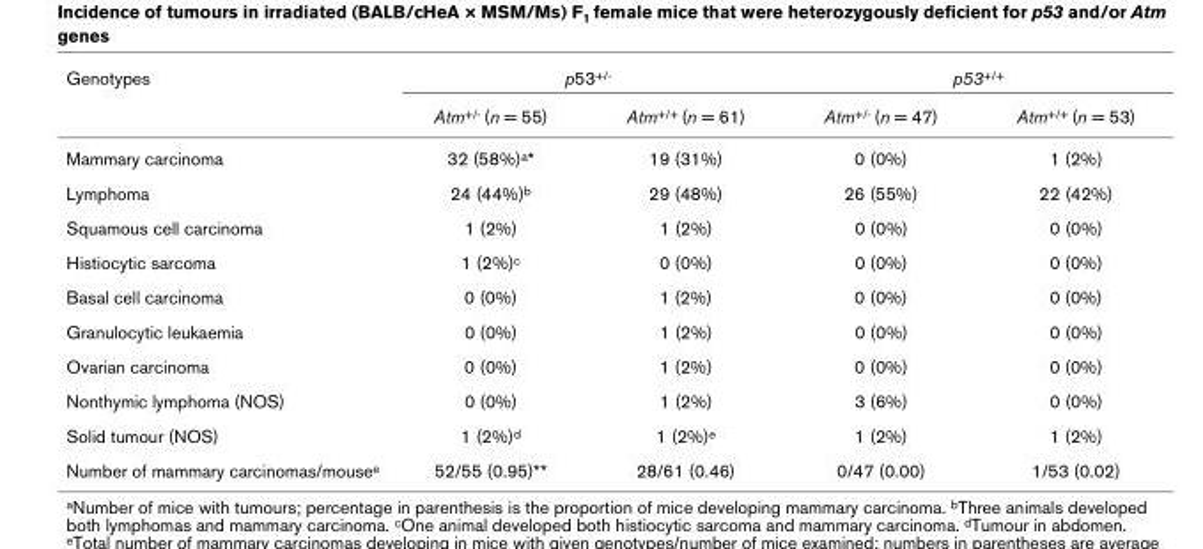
<table><thead><tr><td rowspan="2">Genotypes</td><td colspan="2">p53+/-</td><td colspan="2">p53+/+</td></tr><tr><td>Atm+/- (n = 55)</td><td>Atm+/+ (n = 61)</td><td>Atm+/- (n = 47)</td><td>Atm+/+ (n = 53)</td></tr></thead><tbody><tr><td>Mammary carcinoma</td><td>32 (58%)a*</td><td>19 (31%)</td><td>0 (0%)</td><td>1 (2%)</td></tr><tr><td>Lymphoma</td><td>24 (44%)b</td><td>29 (48%)</td><td>26 (55%)</td><td>22 (42%)</td></tr><tr><td>Squamous cell carcinoma</td><td>1 (2%)</td><td>1 (2%)</td><td>0 (0%)</td><td>0 (0%)</td></tr><tr><td>Histiocytic sarcoma</td><td>1 (2%)c</td><td>0 (0%)</td><td>0 (0%)</td><td>0 (0%)</td></tr><tr><td>Basal cell carcinoma</td><td>0 (0%)</td><td>1 (2%)</td><td>0 (0%)</td><td>0 (0%)</td></tr><tr><td>Granulocytic leukaemia</td><td>0 (0%)</td><td>1 (2%)</td><td>0 (0%)</td><td>0 (0%)</td></tr><tr><td>Ovarian carcinoma</td><td>0 (0%)</td><td>1 (2%)</td><td>0 (0%)</td><td>0 (0%)</td></tr><tr><td>Nonthymic lymphoma (NOS)</td><td>0 (0%)</td><td>1 (2%)</td><td>3 (6%)</td><td>0 (0%)</td></tr><tr><td>Solid tumour (NOS)</td><td>1 (2%)d</td><td>1 (2%)e</td><td>1 (2%)</td><td>1 (2%)</td></tr><tr><td>Number of mammary carcinomas/mousee</td><td>52/55 (0.95)**</td><td>28/61 (0.46)</td><td>0/47 (0.00)</td><td>1/53 (0.02)</td></tr></tbody></table>